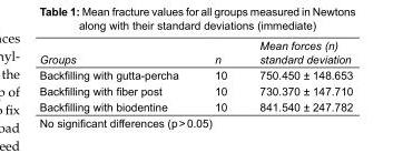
<table><tbody><tr><td>Groups</td><td>n</td><td>Mean forces (n) standard deviation</td></tr><tr><td>Backfilling with gutta-percha</td><td>10</td><td>750.450 ± 148.653</td></tr><tr><td>Backfilling with fiber post</td><td>10</td><td>730.370 ± 147.710</td></tr><tr><td>Backfilling with biodentine</td><td>10</td><td>841.540 ± 247.782</td></tr></tbody></table>